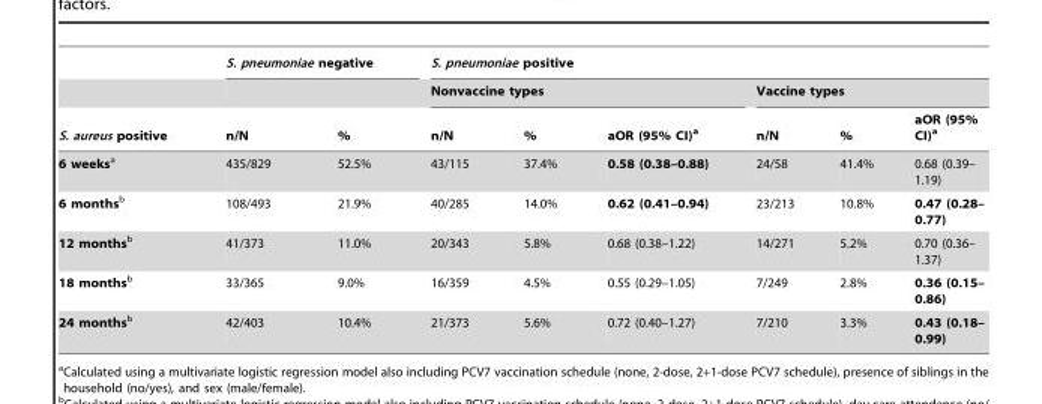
<table><thead><tr><td rowspan="3">S. aureus positive</td><td colspan="2">S. pneumoniae negative</td><td colspan="6">S. pneumoniae positive</td></tr><tr><td rowspan="2">n/N</td><td rowspan="2">%</td><td colspan="3">Nonvaccine types</td><td colspan="3">Vaccine types</td></tr><tr><td>n/N</td><td>%</td><td>aOR (95% CI)<sup>a</sup></td><td>n/N</td><td>%</td><td>aOR (95% CI)<sup>a</sup></td></tr></thead><tbody><tr><td>6 weeksa</td><td>435/829</td><td>52.5%</td><td>43/115</td><td>37.4%</td><td>0.58 (0.38–0.88)</td><td>24/58</td><td>41.4%</td><td>0.68 (0.39– 1.19)</td></tr><tr><td>6 monthsb</td><td>108/493</td><td>21.9%</td><td>40/285</td><td>14.0%</td><td>0.62 (0.41–0.94)</td><td>23/213</td><td>10.8%</td><td>0.47 (0.28– 0.77)</td></tr><tr><td>12 monthsb</td><td>41/373</td><td>11.0%</td><td>20/343</td><td>5.8%</td><td>0.68 (0.38–1.22)</td><td>14/271</td><td>5.2%</td><td>0.70 (0.36– 1.37)</td></tr><tr><td>18 monthsb</td><td>33/365</td><td>9.0%</td><td>16/359</td><td>4.5%</td><td>0.55 (0.29–1.05)</td><td>7/249</td><td>2.8%</td><td>0.36 (0.15– 0.86)</td></tr><tr><td>24 monthsb</td><td>42/403</td><td>10.4%</td><td>21/373</td><td>5.6%</td><td>0.72 (0.40–1.27)</td><td>7/210</td><td>3.3%</td><td>0.43 (0.18– 0.99)</td></tr></tbody></table>